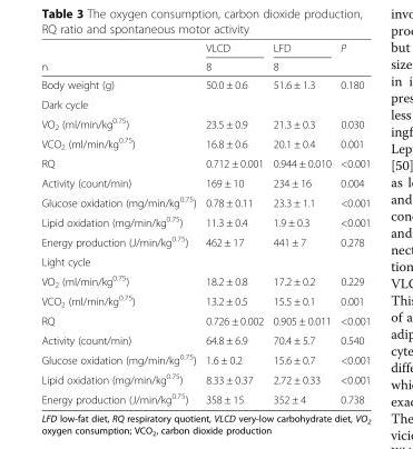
<table><thead><tr><td rowspan="2">n</td><td rowspan="2">VLCD 8</td><td rowspan="2">LFD 8</td><td rowspan="2">P</td></tr><tr></tr></thead><tbody><tr><td>Body weight (g)</td><td>50.0 ± 0.6</td><td>51.6 ± 1.3</td><td>0.180</td></tr><tr><td colspan="4">Dark cycle</td></tr><tr><td>VO<sub>2</sub> (ml/min/kg<sup>0.75</sup>)</td><td>23.5 ± 0.9</td><td>21.3 ± 0.3</td><td>0.030</td></tr><tr><td>VCO<sub>2</sub> (ml/min/kg<sup>0.75</sup>)</td><td>16.8 ± 0.6</td><td>20.1 ± 0.4</td><td>0.001</td></tr><tr><td>RQ</td><td>0.712 ± 0.001</td><td>0.944 ± 0.010</td><td>&lt;0.001</td></tr><tr><td>Activity (count/min)</td><td>169 ± 10</td><td>234 ± 16</td><td>0.004</td></tr><tr><td>Glucose oxidation (mg/min/kg<sup>0.75</sup>)</td><td>0.78 ± 0.11</td><td>23.3 ± 1.1</td><td>&lt;0.001</td></tr><tr><td>Lipid oxidation (mg/min/kg<sup>0.75</sup>)</td><td>11.3 ± 0.4</td><td>1.9 ± 0.3</td><td>&lt;0.001</td></tr><tr><td>Energy production (J/min/kg<sup>0.75</sup>)</td><td>462 ± 17</td><td>441 ± 7</td><td>0.278</td></tr><tr><td colspan="4">Light cycle</td></tr><tr><td>VO<sub>2</sub> (ml/min/kg<sup>0.75</sup>)</td><td>18.2 ± 0.8</td><td>17.2 ± 0.2</td><td>0.229</td></tr><tr><td>VCO<sub>2</sub> (ml/min/kg<sup>0.75</sup>)</td><td>13.2 ± 0.5</td><td>15.5 ± 0.1</td><td>0.001</td></tr><tr><td>RQ</td><td>0.726 ± 0.002</td><td>0.905 ± 0.011</td><td>&lt;0.001</td></tr><tr><td>Activity (count/min)</td><td>64.8 ± 6.9</td><td>70.4 ± 5.7</td><td>0.540</td></tr><tr><td>Glucose oxidation (mg/min/kg<sup>0.75</sup>)</td><td>1.6 ± 0.2</td><td>15.6 ± 0.7</td><td>&lt;0.001</td></tr><tr><td>Lipid oxidation (mg/min/kg<sup>0.75</sup>)</td><td>8.33 ± 0.37</td><td>2.72 ± 0.33</td><td>&lt;0.001</td></tr><tr><td>Energy production (J/min/kg<sup>0.75</sup>)</td><td>358 ± 15</td><td>352 ± 4</td><td>0.738</td></tr></tbody></table>